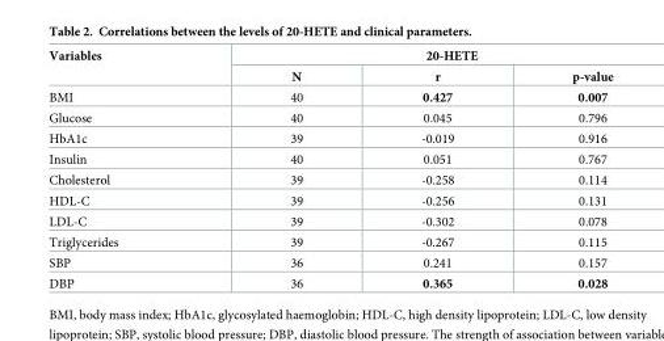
<table><thead><tr><td rowspan="2">Variables</td><td colspan="3">20-HETE</td></tr><tr><td>N</td><td>r</td><td>p-value</td></tr></thead><tbody><tr><td>BMI</td><td>40</td><td>0.427</td><td>0.007</td></tr><tr><td>Glucose</td><td>40</td><td>0.045</td><td>0.796</td></tr><tr><td>HbA1c</td><td>39</td><td>-0.019</td><td>0.916</td></tr><tr><td>Insulin</td><td>40</td><td>0.051</td><td>0.767</td></tr><tr><td>Cholesterol</td><td>39</td><td>-0.258</td><td>0.114</td></tr><tr><td>HDL-C</td><td>39</td><td>-0.256</td><td>0.131</td></tr><tr><td>LDL-C</td><td>39</td><td>-0.302</td><td>0.078</td></tr><tr><td>Triglycerides</td><td>39</td><td>-0.267</td><td>0.115</td></tr><tr><td>SBP</td><td>36</td><td>0.241</td><td>0.157</td></tr><tr><td>DBP</td><td>36</td><td>0.365</td><td>0.028</td></tr></tbody></table>